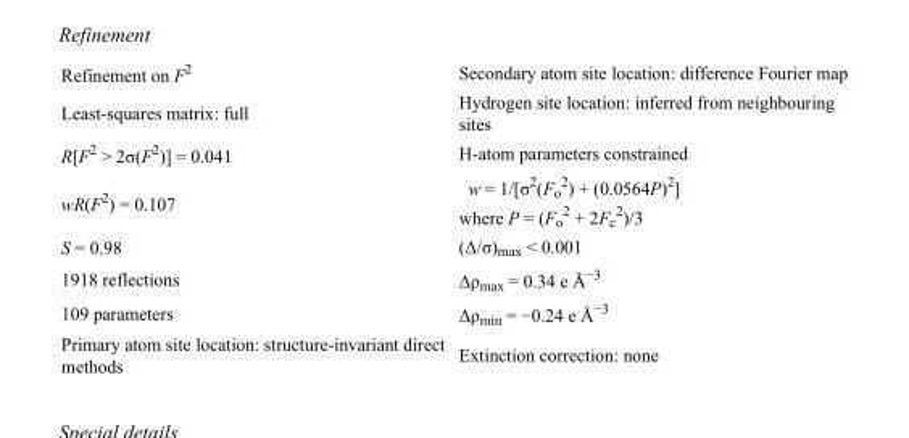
<table><tbody><tr><td>Refinement on F<sup>2</sup></td><td>Secondary atom site location: difference Fourier map</td></tr><tr><td>Least-squares matrix: full</td><td>Hydrogen site location: inferred from neighbouring sites</td></tr><tr><td>R[F<sup>2</sup> &gt; 2σ(F<sup>2</sup>)] = 0.041</td><td>H-atom parameters constrained</td></tr><tr><td>wR(F<sup>2</sup>) = 0.107</td><td>w = 1/[σ<sup>2</sup>(F<sub>o</sub> <sup>2</sup>) + (0.0564P)<sup>2</sup>] where P = (F<sub>o</sub> <sup>2</sup> + 2F<sub>c</sub> <sup>2</sup>)/3</td></tr><tr><td>S = 0.98</td><td>(Δ/σ)<sub>max</sub> &lt; 0.001</td></tr><tr><td>1918 reflections</td><td>Δρ<sub>max</sub> = 0.34 e Å<sup>−3</sup></td></tr><tr><td>109 parameters</td><td>Δρ<sub>min</sub> = −0.24 e Å<sup>−3</sup></td></tr><tr><td>Primary atom site location: structure-invariant direct methods</td><td>Extinction correction: none</td></tr></tbody></table>